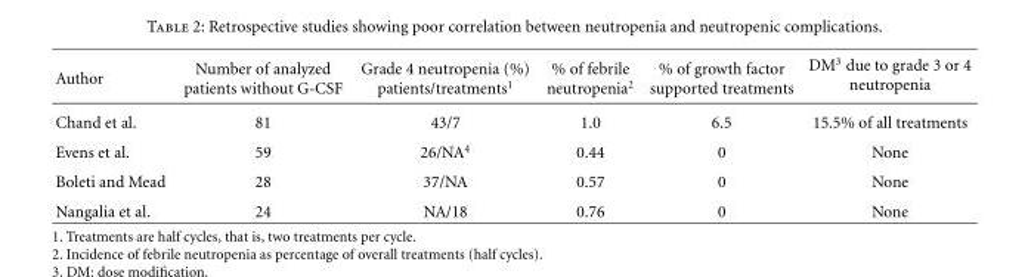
<table><thead><tr><td>Author</td><td>Number of analyzed patients without G-CSF</td><td>Grade 4 neutropenia (%) patients/treatments<sup>1</sup></td><td>% of febrile neutropenia<sup>2</sup></td><td>% of growth factor supported treatments</td><td>DM<sup>3</sup> due to grade 3 or 4 neutropenia</td></tr></thead><tbody><tr><td>Chand et al.</td><td>81</td><td>43/7</td><td>1.0</td><td>6.5</td><td>15.5% of all treatments</td></tr><tr><td>Evens et al.</td><td>59</td><td>26/NA<sup>4</sup></td><td>0.44</td><td>0</td><td>None</td></tr><tr><td>Boleti and Mead</td><td>28</td><td>37/NA</td><td>0.57</td><td>0</td><td>None</td></tr><tr><td>Nangalia et al.</td><td>24</td><td>NA/18</td><td>0.76</td><td>0</td><td>None</td></tr></tbody></table>